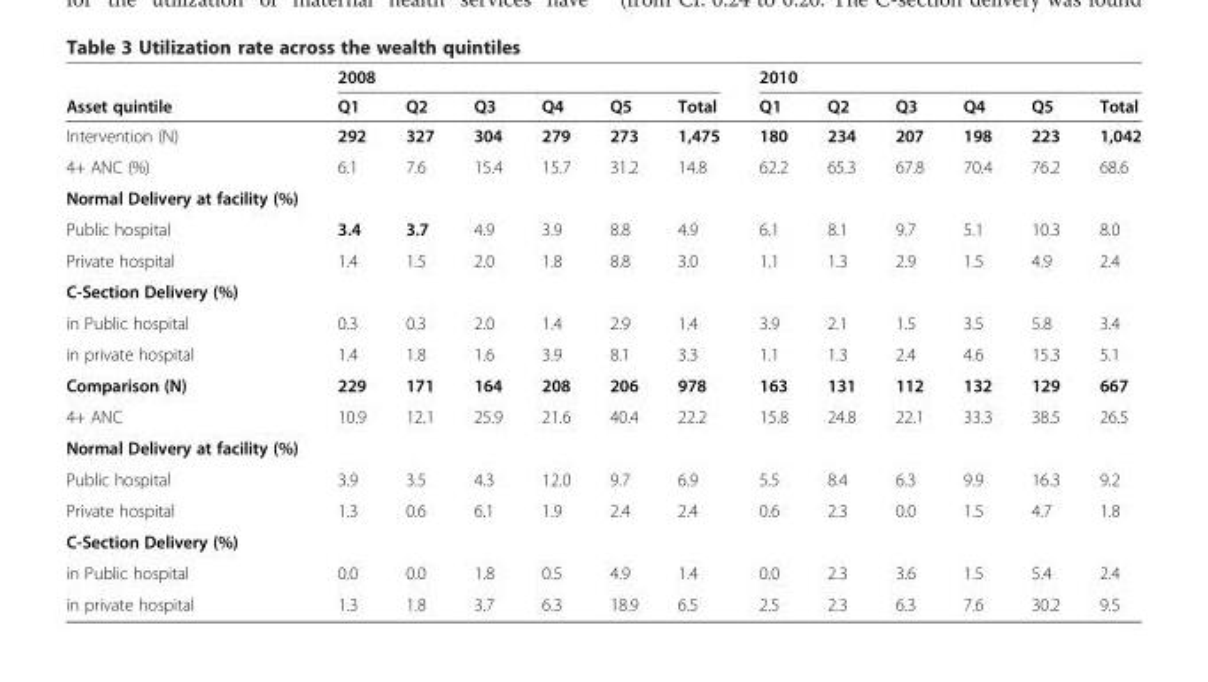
<table><thead><tr><td rowspan="2">Asset quintile</td><td colspan="6">2008</td><td colspan="6">2010</td></tr><tr><td>Q1</td><td>Q2</td><td>Q3</td><td>Q4</td><td>Q5</td><td>Total</td><td>Q1</td><td>Q2</td><td>Q3</td><td>Q4</td><td>Q5</td><td>Total</td></tr></thead><tbody><tr><td>Intervention (N)</td><td>292</td><td>327</td><td>304</td><td>279</td><td>273</td><td>1,475</td><td>180</td><td>234</td><td>207</td><td>198</td><td>223</td><td>1,042</td></tr><tr><td>4+ ANC (%)</td><td>6.1</td><td>7.6</td><td>15.4</td><td>15.7</td><td>31.2</td><td>14.8</td><td>62.2</td><td>65.3</td><td>67.8</td><td>70.4</td><td>76.2</td><td>68.6</td></tr><tr><td colspan="13">Normal Delivery at facility (%)</td></tr><tr><td>Public hospital</td><td>3.4</td><td>3.7</td><td>4.9</td><td>3.9</td><td>8.8</td><td>4.9</td><td>6.1</td><td>8.1</td><td>9.7</td><td>5.1</td><td>10.3</td><td>8.0</td></tr><tr><td>Private hospital</td><td>1.4</td><td>1.5</td><td>2.0</td><td>1.8</td><td>8.8</td><td>3.0</td><td>1.1</td><td>1.3</td><td>2.9</td><td>1.5</td><td>4.9</td><td>2.4</td></tr><tr><td colspan="13">C-Section Delivery (%)</td></tr><tr><td>in Public hospital</td><td>0.3</td><td>0.3</td><td>2.0</td><td>1.4</td><td>2.9</td><td>1.4</td><td>3.9</td><td>2.1</td><td>1.5</td><td>3.5</td><td>5.8</td><td>3.4</td></tr><tr><td>in private hospital</td><td>1.4</td><td>1.8</td><td>1.6</td><td>3.9</td><td>8.1</td><td>3.3</td><td>1.1</td><td>1.3</td><td>2.4</td><td>4.6</td><td>15.3</td><td>5.1</td></tr><tr><td>Comparison (N)</td><td>229</td><td>171</td><td>164</td><td>208</td><td>206</td><td>978</td><td>163</td><td>131</td><td>112</td><td>132</td><td>129</td><td>667</td></tr><tr><td>4+ ANC</td><td>10.9</td><td>12.1</td><td>25.9</td><td>21.6</td><td>40.4</td><td>22.2</td><td>15.8</td><td>24.8</td><td>22.1</td><td>33.3</td><td>38.5</td><td>26.5</td></tr><tr><td colspan="13">Normal Delivery at facility (%)</td></tr><tr><td>Public hospital</td><td>3.9</td><td>3.5</td><td>4.3</td><td>12.0</td><td>9.7</td><td>6.9</td><td>5.5</td><td>8.4</td><td>6.3</td><td>9.9</td><td>16.3</td><td>9.2</td></tr><tr><td>Private hospital</td><td>1.3</td><td>0.6</td><td>6.1</td><td>1.9</td><td>2.4</td><td>2.4</td><td>0.6</td><td>2.3</td><td>0.0</td><td>1.5</td><td>4.7</td><td>1.8</td></tr><tr><td colspan="13">C-Section Delivery (%)</td></tr><tr><td>in Public hospital</td><td>0.0</td><td>0.0</td><td>1.8</td><td>0.5</td><td>4.9</td><td>1.4</td><td>0.0</td><td>2.3</td><td>3.6</td><td>1.5</td><td>5.4</td><td>2.4</td></tr><tr><td>in private hospital</td><td>1.3</td><td>1.8</td><td>3.7</td><td>6.3</td><td>18.9</td><td>6.5</td><td>2.5</td><td>2.3</td><td>6.3</td><td>7.6</td><td>30.2</td><td>9.5</td></tr></tbody></table>